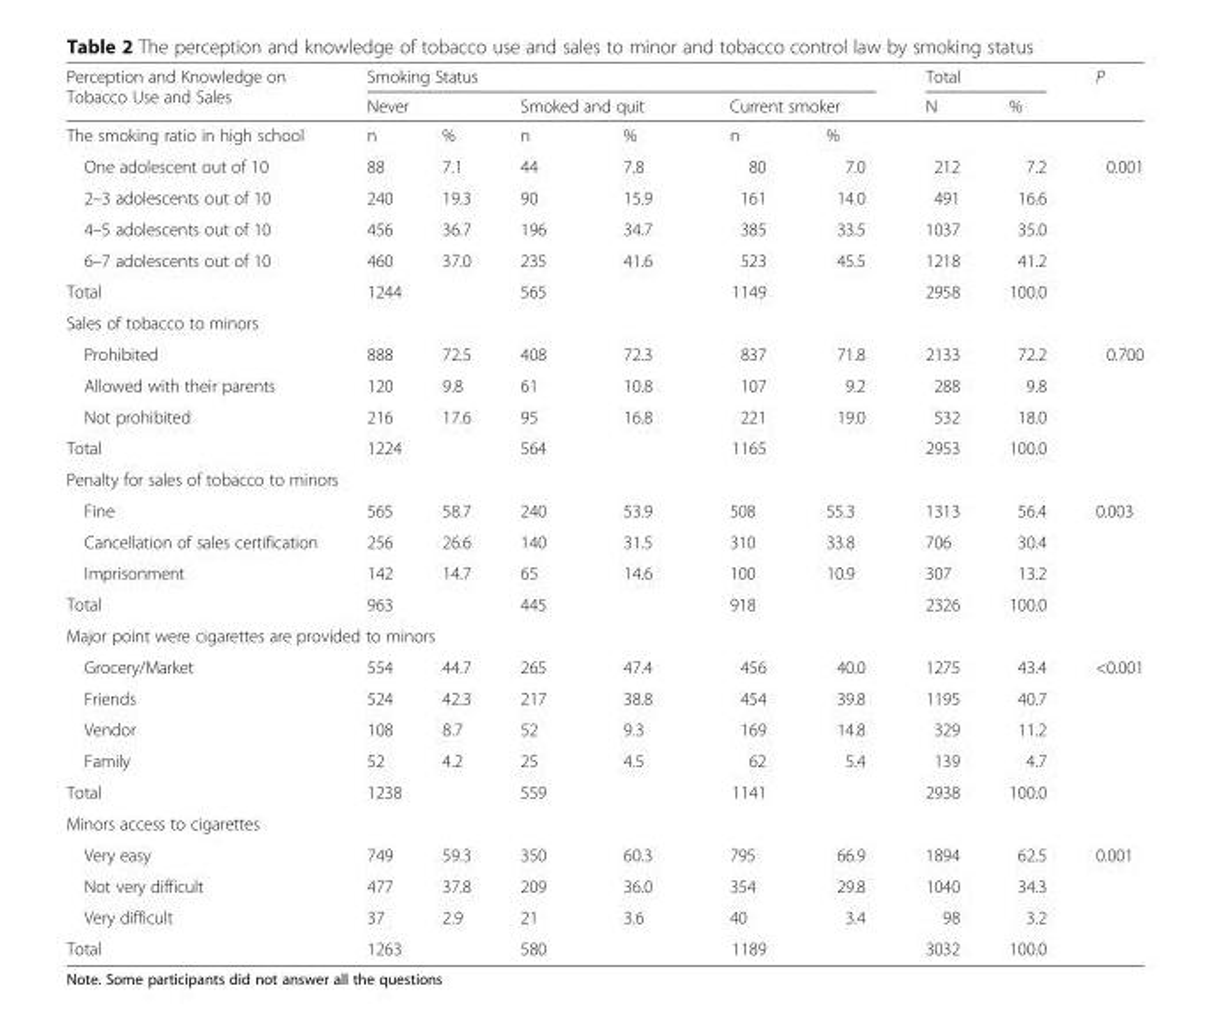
<table><thead><tr><td rowspan="3">Perception and Knowledge on Tobacco Use and Sales The smoking ratio in high school</td><td colspan="6">Smoking Status</td><td colspan="2">Total</td><td rowspan="3">P</td></tr><tr><td colspan="2">Never</td><td colspan="2">Smoked and quit</td><td colspan="2">Current smoker</td><td rowspan="2">N</td><td rowspan="2">%</td></tr><tr><td>n</td><td>%</td><td>n</td><td>%</td><td>n</td><td>%</td></tr></thead><tbody><tr><td>One adolescent out of 10</td><td>88</td><td>7.1</td><td>44</td><td>7.8</td><td>80</td><td>7.0</td><td>212</td><td>7.2</td><td rowspan="5">0.001</td></tr><tr><td>2–3 adolescents out of 10</td><td>240</td><td>19.3</td><td>90</td><td>15.9</td><td>161</td><td>14.0</td><td>491</td><td>16.6</td></tr><tr><td>4–5 adolescents out of 10</td><td>456</td><td>36.7</td><td>196</td><td>34.7</td><td>385</td><td>33.5</td><td>1037</td><td>35.0</td></tr><tr><td>6–7 adolescents out of 10</td><td>460</td><td>37.0</td><td>235</td><td>41.6</td><td>523</td><td>45.5</td><td>1218</td><td>41.2</td></tr><tr><td>Total</td><td colspan="2">1244</td><td colspan="2">565</td><td colspan="2">1149</td><td>2958</td><td>100.0</td></tr><tr><td colspan="10">Sales of tobacco to minors</td></tr><tr><td>Prohibited</td><td>888</td><td>72.5</td><td>408</td><td>72.3</td><td>837</td><td>71.8</td><td>2133</td><td>72.2</td><td rowspan="4">0.700</td></tr><tr><td>Allowed with their parents</td><td>120</td><td>9.8</td><td>61</td><td>10.8</td><td>107</td><td>9.2</td><td>288</td><td>9.8</td></tr><tr><td>Not prohibited</td><td>216</td><td>17.6</td><td>95</td><td>16.8</td><td>221</td><td>19.0</td><td>532</td><td>18.0</td></tr><tr><td>Total</td><td colspan="2">1224</td><td colspan="2">564</td><td colspan="2">1165</td><td>2953</td><td>100.0</td></tr><tr><td colspan="10">Penalty for sales of tobacco to minors</td></tr><tr><td>Fine</td><td>565</td><td>58.7</td><td>240</td><td>53.9</td><td>508</td><td>55.3</td><td>1313</td><td>56.4</td><td rowspan="4">0.003</td></tr><tr><td>Cancellation of sales certification</td><td>256</td><td>26.6</td><td>140</td><td>31.5</td><td>310</td><td>33.8</td><td>706</td><td>30.4</td></tr><tr><td>Imprisonment</td><td>142</td><td>14.7</td><td>65</td><td>14.6</td><td>100</td><td>10.9</td><td>307</td><td>13.2</td></tr><tr><td>Total</td><td colspan="2">963</td><td colspan="2">445</td><td colspan="2">918</td><td>2326</td><td>100.0</td></tr><tr><td colspan="10">Major point were cigarettes are provided to minors</td></tr><tr><td>Grocery/Market</td><td>554</td><td>44.7</td><td>265</td><td>47.4</td><td>456</td><td>40.0</td><td>1275</td><td>43.4</td><td rowspan="5">&lt;0.001</td></tr><tr><td>Friends</td><td>524</td><td>42.3</td><td>217</td><td>38.8</td><td>454</td><td>39.8</td><td>1195</td><td>40.7</td></tr><tr><td>Vendor</td><td>108</td><td>8.7</td><td>52</td><td>9.3</td><td>169</td><td>14.8</td><td>329</td><td>11.2</td></tr><tr><td>Family</td><td>52</td><td>4.2</td><td>25</td><td>4.5</td><td>62</td><td>5.4</td><td>139</td><td>4.7</td></tr><tr><td>Total</td><td colspan="2">1238</td><td colspan="2">559</td><td colspan="2">1141</td><td>2938</td><td>100.0</td></tr><tr><td colspan="10">Minors access to cigarettes</td></tr><tr><td>Very easy</td><td>749</td><td>59.3</td><td>350</td><td>60.3</td><td>795</td><td>66.9</td><td>1894</td><td>62.5</td><td rowspan="4">0.001</td></tr><tr><td>Not very difficult</td><td>477</td><td>37.8</td><td>209</td><td>36.0</td><td>354</td><td>29.8</td><td>1040</td><td>34.3</td></tr><tr><td>Very difficult</td><td>37</td><td>2.9</td><td>21</td><td>3.6</td><td>40</td><td>3.4</td><td>98</td><td>3.2</td></tr><tr><td>Total</td><td colspan="2">1263</td><td colspan="2">580</td><td colspan="2">1189</td><td>3032</td><td>100.0</td></tr></tbody></table>